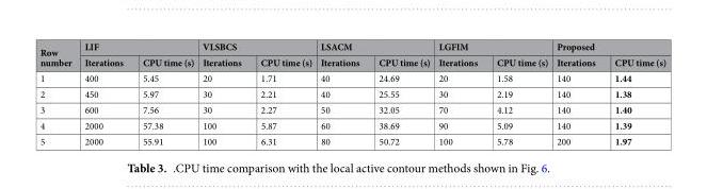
<table><thead><tr><td rowspan="2">Row number</td><td colspan="2">LIF</td><td colspan="2">VLSBCS</td><td colspan="2">LSACM</td><td colspan="2">LGFIM</td><td colspan="2">Proposed</td></tr><tr><td>Iterations</td><td>CPU time (s)</td><td>Iterations</td><td>CPU time (s)</td><td>Iterations</td><td>CPU time (s)</td><td>Iterations</td><td>CPU time (s)</td><td>Iterations</td><td>CPU time (s)</td></tr></thead><tbody><tr><td>1</td><td>400</td><td>5.45</td><td>20</td><td>1.71</td><td>40</td><td>24.69</td><td>20</td><td>1.58</td><td>140</td><td>1.44</td></tr><tr><td>2</td><td>450</td><td>5.97</td><td>30</td><td>2.21</td><td>40</td><td>25.55</td><td>30</td><td>2.19</td><td>140</td><td>1.38</td></tr><tr><td>3</td><td>600</td><td>7.56</td><td>30</td><td>2.27</td><td>50</td><td>32.05</td><td>70</td><td>4.12</td><td>140</td><td>1.40</td></tr><tr><td>4</td><td>2000</td><td>57.38</td><td>100</td><td>5.87</td><td>60</td><td>38.69</td><td>90</td><td>5.09</td><td>140</td><td>1.39</td></tr><tr><td>5</td><td>2000</td><td>55.91</td><td>100</td><td>6.31</td><td>80</td><td>50.72</td><td>100</td><td>5.78</td><td>200</td><td>1.97</td></tr></tbody></table>